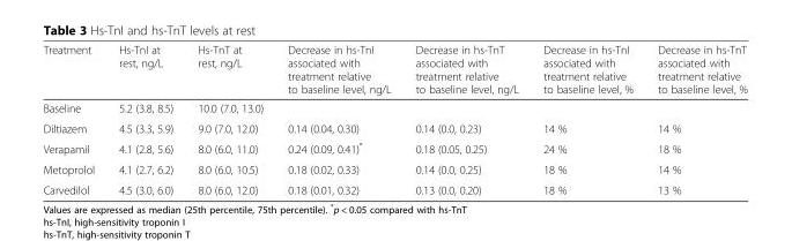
<table><thead><tr><td>Treatment</td><td>Hs-TnI at rest, ng/L</td><td>Hs-TnT at rest, ng/L</td><td>Decrease in hs-TnI associated with treatment relative to baseline level, ng/L</td><td>Decrease in hs-TnT associated with treatment relative to baseline level, ng/L</td><td>Decrease in hs-TnI associated with treatment relative to baseline level, %</td><td>Decrease in hs-TnT associated with treatment relative to baseline level, %</td></tr></thead><tbody><tr><td>Baseline</td><td>5.2 (3.8, 8.5)</td><td>10.0 (7.0, 13.0)</td><td></td><td></td><td></td><td></td></tr><tr><td>Diltiazem</td><td>4.5 (3.3, 5.9)</td><td>9.0 (7.0, 12.0)</td><td>0.14 (0.04, 0.30)</td><td>0.14 (0.0, 0.23)</td><td>14 %</td><td>14 %</td></tr><tr><td>Verapamil</td><td>4.1 (2.8, 5.6)</td><td>8.0 (6.0, 11.0)</td><td>0.24 (0.09, 0.41)*</td><td>0.18 (0.05, 0.25)</td><td>24 %</td><td>18 %</td></tr><tr><td>Metoprolol</td><td>4.1 (2.7, 6.2)</td><td>8.0 (6.0, 10.5)</td><td>0.18 (0.02, 0.33)</td><td>0.14 (0.0, 0.25)</td><td>18 %</td><td>14 %</td></tr><tr><td>Carvedilol</td><td>4.5 (3.0, 6.0)</td><td>8.0 (6.0, 12.0)</td><td>0.18 (0.01, 0.32)</td><td>0.13 (0.0, 0.20)</td><td>18 %</td><td>13 %</td></tr></tbody></table>